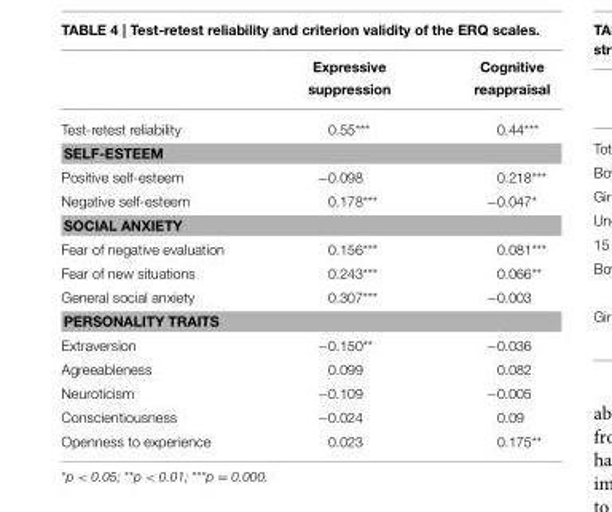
<table><thead><tr><td></td><td>Expressive suppression</td><td>Cognitive reappraisal</td></tr></thead><tbody><tr><td>Test-retest reliability</td><td>0.55***</td><td>0.44***</td></tr><tr><td colspan="3">SELF-ESTEEM</td></tr><tr><td>Positive self-esteem</td><td>−0.098</td><td>0.218***</td></tr><tr><td>Negative self-esteem</td><td>0.178***</td><td>−0.047*</td></tr><tr><td colspan="3">SOCIAL ANXIETY</td></tr><tr><td>Fear of negative evaluation</td><td>0.156***</td><td>0.081***</td></tr><tr><td>Fear of new situations</td><td>0.243***</td><td>0.066**</td></tr><tr><td>General social anxiety</td><td>0.307***</td><td>−0.003</td></tr><tr><td colspan="3">PERSONALITY TRAITS</td></tr><tr><td>Extraversion</td><td>−0.150**</td><td>−0.036</td></tr><tr><td>Agreeableness</td><td>0.099</td><td>0.082</td></tr><tr><td>Neuroticism</td><td>−0.109</td><td>−0.005</td></tr><tr><td>Conscientiousness</td><td>−0.024</td><td>0.09</td></tr><tr><td>Openness to experience</td><td>0.023</td><td>0.175**</td></tr></tbody></table>